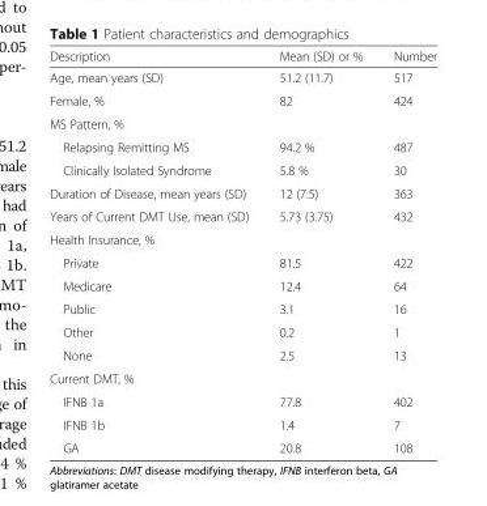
<table><thead><tr><td>Description</td><td>Mean (SD) or %</td><td>Number</td></tr></thead><tbody><tr><td>Age, mean years (SD)</td><td>51.2 (11.7)</td><td>517</td></tr><tr><td>Female, %</td><td>82</td><td>424</td></tr><tr><td colspan="3">MS Pattern, %</td></tr><tr><td>Relapsing Remitting MS</td><td>94.2 %</td><td>487</td></tr><tr><td>Clinically Isolated Syndrome</td><td>5.8 %</td><td>30</td></tr><tr><td>Duration of Disease, mean years (SD)</td><td>12 (7.5)</td><td>363</td></tr><tr><td>Years of Current DMT Use, mean (SD)</td><td>5.73 (3.75)</td><td>432</td></tr><tr><td colspan="3">Health Insurance, %</td></tr><tr><td>Private</td><td>81.5</td><td>422</td></tr><tr><td>Medicare</td><td>12.4</td><td>64</td></tr><tr><td>Public</td><td>3.1</td><td>16</td></tr><tr><td>Other</td><td>0.2</td><td>1</td></tr><tr><td>None</td><td>2.5</td><td>13</td></tr><tr><td colspan="3">Current DMT, %</td></tr><tr><td>IFNB 1a</td><td>77.8</td><td>402</td></tr><tr><td>IFNB 1b</td><td>1.4</td><td>7</td></tr><tr><td>GA</td><td>20.8</td><td>108</td></tr></tbody></table>